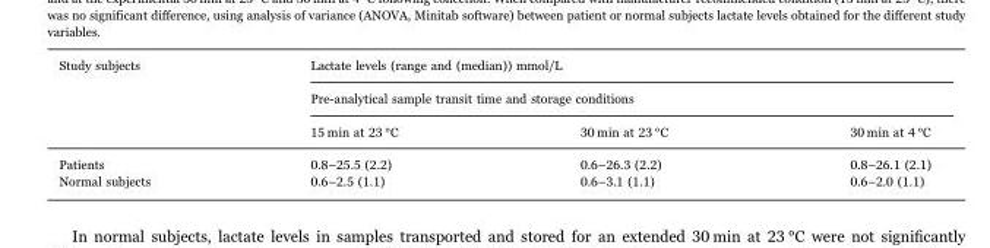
<table><thead><tr><td rowspan="3">Study subjects</td><td rowspan="2" colspan="3">Lactate levels (range and (median)) mmol/L Pre-analytical sample transit time and storage conditions</td></tr><tr></tr><tr><td>15 min at 23 °C</td><td>30 min at 23 °C</td><td>30 min at 4 °C</td></tr></thead><tbody><tr><td>Patients</td><td>0.8–25.5 (2.2)</td><td>0.6–26.3 (2.2)</td><td>0.8–26.1 (2.1)</td></tr><tr><td>Normal subjects</td><td>0.6–2.5 (1.1)</td><td>0.6–3.1 (1.1)</td><td>0.6–2.0 (1.1)</td></tr></tbody></table>